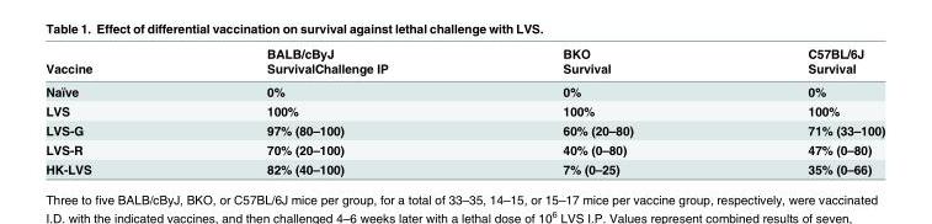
<table><thead><tr><td rowspan="2">Vaccine</td><td rowspan="2">BALB/cByJ SurvivalChallenge IP</td><td rowspan="2">BKO Survival</td><td rowspan="2">C57BL/6J Survival</td></tr><tr></tr></thead><tbody><tr><td>Naïve</td><td>0%</td><td>0%</td><td>0%</td></tr><tr><td>LVS</td><td>100%</td><td>100%</td><td>100%</td></tr><tr><td>LVS-G</td><td>97% (80–100)</td><td>60% (20–80)</td><td>71% (33–100)</td></tr><tr><td>LVS-R</td><td>70% (20–100)</td><td>40% (0–80)</td><td>47% (0–80)</td></tr><tr><td>HK-LVS</td><td>82% (40–100)</td><td>7% (0–25)</td><td>35% (0–66)</td></tr></tbody></table>